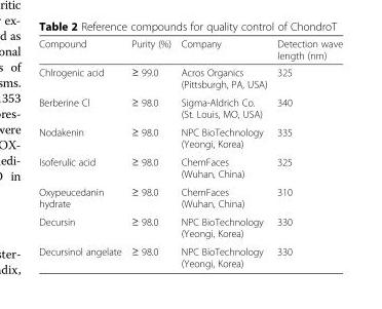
<table><thead><tr><td>Compound</td><td>Purity (%)</td><td>Company</td><td>Detection wave length (nm)</td></tr></thead><tbody><tr><td>Chlrogenic acid</td><td>≥ 99.0</td><td>Acros Organics (Pittsburgh, PA, USA)</td><td>325</td></tr><tr><td>Berberine Cl</td><td>≥ 98.0</td><td>Sigma-Aldrich Co. (St. Louis, MO, USA)</td><td>340</td></tr><tr><td>Nodakenin</td><td>≥ 98.0</td><td>NPC BioTechnology (Yeongi, Korea)</td><td>335</td></tr><tr><td>Isoferulic acid</td><td>≥ 98.0</td><td>ChemFaces (Wuhan, China)</td><td>325</td></tr><tr><td>Oxypeucedanin hydrate</td><td>≥ 98.0</td><td>ChemFaces (Wuhan, China)</td><td>310</td></tr><tr><td>Decursin</td><td>≥ 98.0</td><td>NPC BioTechnology (Yeongi, Korea)</td><td>330</td></tr><tr><td>Decursinol angelate</td><td>≥ 98.0</td><td>NPC BioTechnology (Yeongi, Korea)</td><td>330</td></tr></tbody></table>